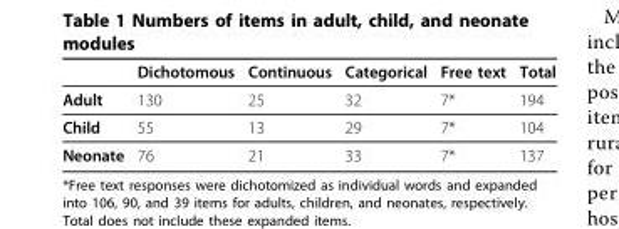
<table><thead><tr><td></td><td>Dichotomous</td><td>Continuous</td><td>Categorical</td><td>Free text</td><td>Total</td></tr></thead><tbody><tr><td>Adult</td><td>130</td><td>25</td><td>32</td><td>7*</td><td>194</td></tr><tr><td>Child</td><td>55</td><td>13</td><td>29</td><td>7*</td><td>104</td></tr><tr><td>Neonate</td><td>76</td><td>21</td><td>33</td><td>7*</td><td>137</td></tr></tbody></table>